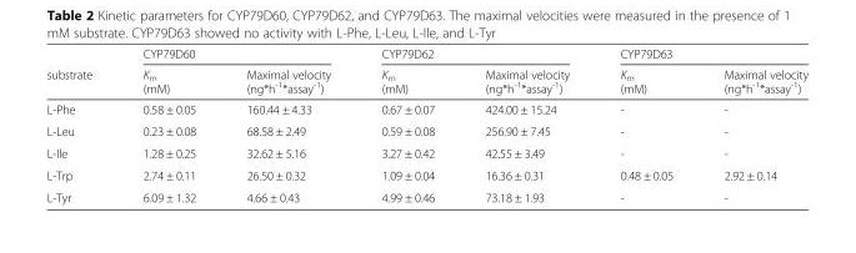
<table><thead><tr><td rowspan="2">substrate</td><td colspan="2">CYP79D60</td><td colspan="2">CYP79D62</td><td colspan="2">CYP79D63</td></tr><tr><td>K<sub>m</sub> (mM)</td><td>Maximal velocity (ng*h<sup>-1</sup>*assay<sup>-1</sup>)</td><td>K<sub>m</sub> (mM)</td><td>Maximal velocity (ng*h<sup>-1</sup>*assay<sup>-1</sup>)</td><td>K<sub>m</sub> (mM)</td><td>Maximal velocity (ng*h<sup>-1</sup>*assay<sup>-1</sup>)</td></tr></thead><tbody><tr><td>L-Phe</td><td>0.58 ± 0.05</td><td>160.44 ± 4.33</td><td>0.67 ± 0.07</td><td>424.00 ± 15.24</td><td>-</td><td>-</td></tr><tr><td>L-Leu</td><td>0.23 ± 0.08</td><td>68.58 ± 2.49</td><td>0.59 ± 0.08</td><td>256.90 ± 7.45</td><td>-</td><td>-</td></tr><tr><td>L-Ile</td><td>1.28 ± 0.25</td><td>32.62 ± 5.16</td><td>3.27 ± 0.42</td><td>42.55 ± 3.49</td><td>-</td><td>-</td></tr><tr><td>L-Trp</td><td>2.74 ± 0.11</td><td>26.50 ± 0.32</td><td>1.09 ± 0.04</td><td>16.36 ± 0.31</td><td>0.48 ± 0.05</td><td>2.92 ± 0.14</td></tr><tr><td>L-Tyr</td><td>6.09 ± 1.32</td><td>4.66 ± 0.43</td><td>4.99 ± 0.46</td><td>73.18 ± 1.93</td><td>-</td><td>-</td></tr></tbody></table>